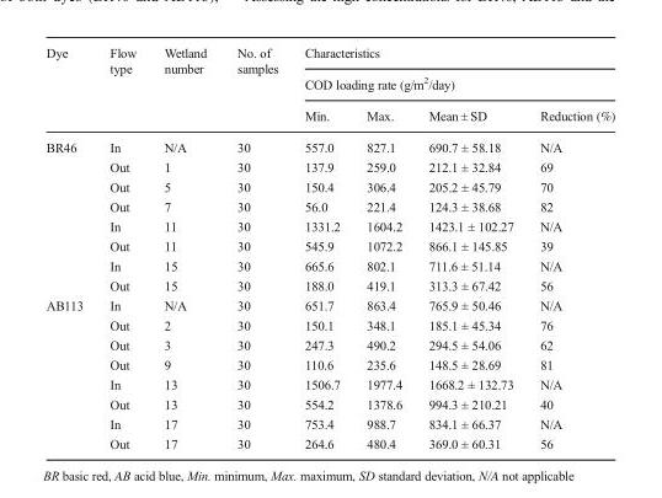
<table><thead><tr><td rowspan="3">Dye</td><td rowspan="3">Flow type</td><td rowspan="3">Wetland number</td><td rowspan="3">No. of samples</td><td rowspan="2" colspan="4">Characteristics COD loading rate (g/m<sup>2</sup>/day)</td></tr><tr></tr><tr><td>Min.</td><td>Max.</td><td>Mean ± SD</td><td>Reduction (%)</td></tr></thead><tbody><tr><td rowspan="8">BR46</td><td>In</td><td>N/A</td><td>30</td><td>557.0</td><td>827.1</td><td>690.7 ± 58.18</td><td>N/A</td></tr><tr><td>Out</td><td>1</td><td>30</td><td>137.9</td><td>259.0</td><td>212.1 ± 32.84</td><td>69</td></tr><tr><td>Out</td><td>5</td><td>30</td><td>150.4</td><td>306.4</td><td>205.2 ± 45.79</td><td>70</td></tr><tr><td>Out</td><td>7</td><td>30</td><td>56.0</td><td>221.4</td><td>124.3 ± 38.68</td><td>82</td></tr><tr><td>In</td><td>11</td><td>30</td><td>1331.2</td><td>1604.2</td><td>1423.1 ± 102.27</td><td>N/A</td></tr><tr><td>Out</td><td>11</td><td>30</td><td>545.9</td><td>1072.2</td><td>866.1 ± 145.85</td><td>39</td></tr><tr><td>In</td><td>15</td><td>30</td><td>665.6</td><td>802.1</td><td>711.6 ± 51.14</td><td>N/A</td></tr><tr><td>Out</td><td>15</td><td>30</td><td>188.0</td><td>419.1</td><td>313.3 ± 67.42</td><td>56</td></tr><tr><td rowspan="8">AB113</td><td>In</td><td>N/A</td><td>30</td><td>651.7</td><td>863.4</td><td>765.9 ± 50.46</td><td>N/A</td></tr><tr><td>Out</td><td>2</td><td>30</td><td>150.1</td><td>348.1</td><td>185.1 ± 45.34</td><td>76</td></tr><tr><td>Out</td><td>3</td><td>30</td><td>247.3</td><td>490.2</td><td>294.5 ± 54.06</td><td>62</td></tr><tr><td>Out</td><td>9</td><td>30</td><td>110.6</td><td>235.6</td><td>148.5 ± 28.69</td><td>81</td></tr><tr><td>In</td><td>13</td><td>30</td><td>1506.7</td><td>1977.4</td><td>1668.2 ± 132.73</td><td>N/A</td></tr><tr><td>Out</td><td>13</td><td>30</td><td>554.2</td><td>1378.6</td><td>994.3 ± 210.21</td><td>40</td></tr><tr><td>In</td><td>17</td><td>30</td><td>753.4</td><td>988.7</td><td>834.1 ± 66.37</td><td>N/A</td></tr><tr><td>Out</td><td>17</td><td>30</td><td>264.6</td><td>480.4</td><td>369.0 ± 60.31</td><td>56</td></tr></tbody></table>